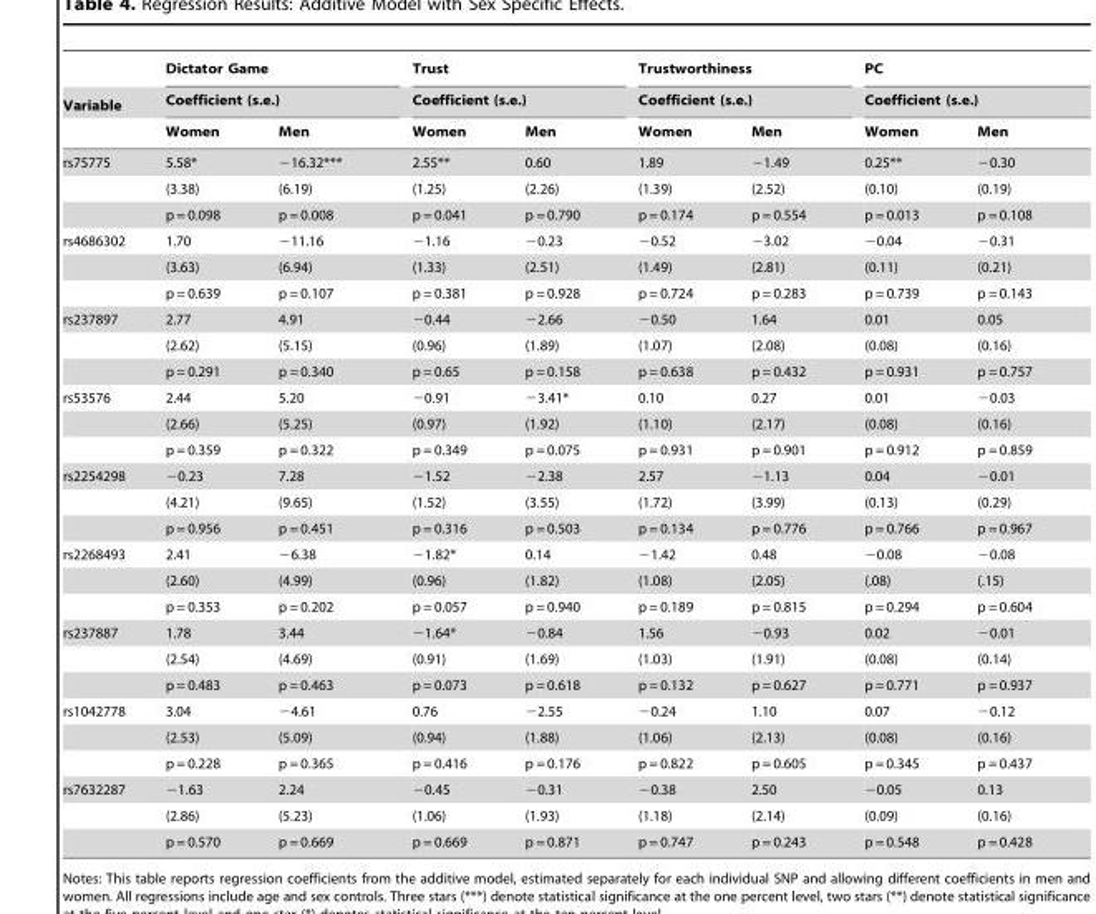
<table><thead><tr><td rowspan="3">Variable</td><td rowspan="2" colspan="2">Dictator Game Coefficient (s.e.)</td><td rowspan="2" colspan="2">Trust Coefficient (s.e.)</td><td rowspan="2" colspan="2">Trustworthiness Coefficient (s.e.)</td><td rowspan="2" colspan="2">PC Coefficient (s.e.)</td></tr><tr></tr><tr><td>Women</td><td>Men</td><td>Women</td><td>Men</td><td>Women</td><td>Men</td><td>Women</td><td>Men</td></tr></thead><tbody><tr><td rowspan="3">rs75775</td><td>5.58*</td><td>−16.32***</td><td>2.55**</td><td>0.60</td><td>1.89</td><td>−1.49</td><td>0.25**</td><td>−0.30</td></tr><tr><td>(3.38)</td><td>(6.19)</td><td>(1.25)</td><td>(2.26)</td><td>(1.39)</td><td>(2.52)</td><td>(0.10)</td><td>(0.19)</td></tr><tr><td>p = 0.098</td><td>p = 0.008</td><td>p = 0.041</td><td>p = 0.790</td><td>p = 0.174</td><td>p = 0.554</td><td>p = 0.013</td><td>p = 0.108</td></tr><tr><td rowspan="3">rs4686302</td><td>1.70</td><td>−11.16</td><td>−1.16</td><td>−0.23</td><td>−0.52</td><td>−3.02</td><td>−0.04</td><td>−0.31</td></tr><tr><td>(3.63)</td><td>(6.94)</td><td>(1.33)</td><td>(2.51)</td><td>(1.49)</td><td>(2.81)</td><td>(0.11)</td><td>(0.21)</td></tr><tr><td>p = 0.639</td><td>p = 0.107</td><td>p = 0.381</td><td>p = 0.928</td><td>p = 0.724</td><td>p = 0.283</td><td>p = 0.739</td><td>p = 0.143</td></tr><tr><td rowspan="3">rs237897</td><td>2.77</td><td>4.91</td><td>−0.44</td><td>−2.66</td><td>−0.50</td><td>1.64</td><td>0.01</td><td>0.05</td></tr><tr><td>(2.62)</td><td>(5.15)</td><td>(0.96)</td><td>(1.89)</td><td>(1.07)</td><td>(2.08)</td><td>(0.08)</td><td>(0.16)</td></tr><tr><td>p = 0.291</td><td>p = 0.340</td><td>p = 0.65</td><td>p = 0.158</td><td>p = 0.638</td><td>p = 0.432</td><td>p = 0.931</td><td>p = 0.757</td></tr><tr><td rowspan="3">rs53576</td><td>2.44</td><td>5.20</td><td>−0.91</td><td>−3.41*</td><td>0.10</td><td>0.27</td><td>0.01</td><td>−0.03</td></tr><tr><td>(2.66)</td><td>(5.25)</td><td>(0.97)</td><td>(1.92)</td><td>(1.10)</td><td>(2.17)</td><td>(0.08)</td><td>(0.16)</td></tr><tr><td>p = 0.359</td><td>p = 0.322</td><td>p = 0.349</td><td>p = 0.075</td><td>p = 0.931</td><td>p = 0.901</td><td>p = 0.912</td><td>p = 0.859</td></tr><tr><td rowspan="3">rs2254298</td><td>−0.23</td><td>7.28</td><td>−1.52</td><td>−2.38</td><td>2.57</td><td>−1.13</td><td>0.04</td><td>−0.01</td></tr><tr><td>(4.21)</td><td>(9.65)</td><td>(1.52)</td><td>(3.55)</td><td>(1.72)</td><td>(3.99)</td><td>(0.13)</td><td>(0.29)</td></tr><tr><td>p = 0.956</td><td>p = 0.451</td><td>p = 0.316</td><td>p = 0.503</td><td>p = 0.134</td><td>p = 0.776</td><td>p = 0.766</td><td>p = 0.967</td></tr><tr><td rowspan="3">rs2268493</td><td>2.41</td><td>−6.38</td><td>−1.82*</td><td>0.14</td><td>−1.42</td><td>0.48</td><td>−0.08</td><td>−0.08</td></tr><tr><td>(2.60)</td><td>(4.99)</td><td>(0.96)</td><td>(1.82)</td><td>(1.08)</td><td>(2.05)</td><td>(.08)</td><td>(.15)</td></tr><tr><td>p = 0.353</td><td>p = 0.202</td><td>p = 0.057</td><td>p = 0.940</td><td>p = 0.189</td><td>p = 0.815</td><td>p = 0.294</td><td>p = 0.604</td></tr><tr><td rowspan="3">rs237887</td><td>1.78</td><td>3.44</td><td>−1.64*</td><td>−0.84</td><td>1.56</td><td>−0.93</td><td>0.02</td><td>−0.01</td></tr><tr><td>(2.54)</td><td>(4.69)</td><td>(0.91)</td><td>(1.69)</td><td>(1.03)</td><td>(1.91)</td><td>(0.08)</td><td>(0.14)</td></tr><tr><td>p = 0.483</td><td>p = 0.463</td><td>p = 0.073</td><td>p = 0.618</td><td>p = 0.132</td><td>p = 0.627</td><td>p = 0.771</td><td>p = 0.937</td></tr><tr><td rowspan="3">rs1042778</td><td>3.04</td><td>−4.61</td><td>0.76</td><td>−2.55</td><td>−0.24</td><td>1.10</td><td>0.07</td><td>−0.12</td></tr><tr><td>(2.53)</td><td>(5.09)</td><td>(0.94)</td><td>(1.88)</td><td>(1.06)</td><td>(2.13)</td><td>(0.08)</td><td>(0.16)</td></tr><tr><td>p = 0.228</td><td>p = 0.365</td><td>p = 0.416</td><td>p = 0.176</td><td>p = 0.822</td><td>p = 0.605</td><td>p = 0.345</td><td>p = 0.437</td></tr><tr><td rowspan="3">rs7632287</td><td>−1.63</td><td>2.24</td><td>−0.45</td><td>−0.31</td><td>−0.38</td><td>2.50</td><td>−0.05</td><td>0.13</td></tr><tr><td>(2.86)</td><td>(5.23)</td><td>(1.06)</td><td>(1.93)</td><td>(1.18)</td><td>(2.14)</td><td>(0.09)</td><td>(0.16)</td></tr><tr><td>p = 0.570</td><td>p = 0.669</td><td>p = 0.669</td><td>p = 0.871</td><td>p = 0.747</td><td>p = 0.243</td><td>p = 0.548</td><td>p = 0.428</td></tr></tbody></table>